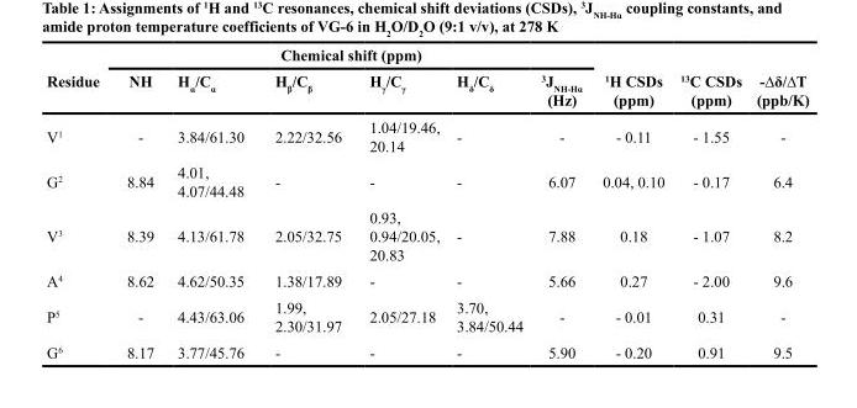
<table><thead><tr><td rowspan="2">Residue</td><td colspan="6">Chemical shift (ppm)</td><td rowspan="2"><sup>1</sup>H CSDs (ppm)</td><td rowspan="2"><sup>13</sup>C CSDs (ppm)</td><td rowspan="2">-∆δ/∆T (ppb/K)</td></tr><tr><td>NH</td><td>H<sub>ɑ</sub>/C<sub>ɑ</sub></td><td>H<sub>β</sub>/C<sub>β</sub></td><td>H<sub>γ</sub>/C<sub>γ</sub></td><td>H<sub>δ</sub>/C<sub>δ</sub></td><td><sup>3</sup>J<sub>NH-Hɑ</sub> (Hz)</td></tr></thead><tbody><tr><td>V<sup>1</sup></td><td>-</td><td>3.84/61.30</td><td>2.22/32.56</td><td>1.04/19.46, 20.14</td><td>-</td><td>-</td><td>- 0.11</td><td>- 1.55</td><td>-</td></tr><tr><td>G<sup>2</sup></td><td>8.84</td><td>4.01, 4.07/44.48</td><td>-</td><td>-</td><td>-</td><td>6.07</td><td>0.04, 0.10</td><td>- 0.17</td><td>6.4</td></tr><tr><td>V<sup>3</sup></td><td>8.39</td><td>4.13/61.78</td><td>2.05/32.75</td><td>0.93, 0.94/20.05, 20.83</td><td>-</td><td>7.88</td><td>0.18</td><td>- 1.07</td><td>8.2</td></tr><tr><td>A<sup>4</sup></td><td>8.62</td><td>4.62/50.35</td><td>1.38/17.89</td><td>-</td><td>-</td><td>5.66</td><td>0.27</td><td>- 2.00</td><td>9.6</td></tr><tr><td>P<sup>5</sup></td><td>-</td><td>4.43/63.06</td><td>1.99, 2.30/31.97</td><td>2.05/27.18</td><td>3.70, 3.84/50.44</td><td>-</td><td>- 0.01</td><td>0.31</td><td>-</td></tr><tr><td>G<sup>6</sup></td><td>8.17</td><td>3.77/45.76</td><td>-</td><td>-</td><td>-</td><td>5.90</td><td>- 0.20</td><td>0.91</td><td>9.5</td></tr></tbody></table>